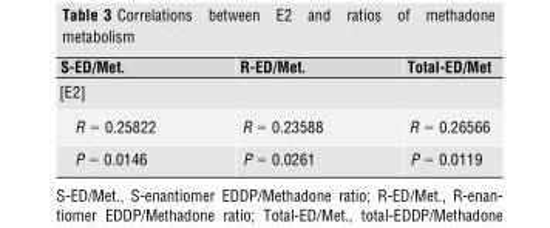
<table><thead><tr><td>S-ED/Met.</td><td>R-ED/Met.</td><td>Total-ED/Met</td></tr></thead><tbody><tr><td colspan="3">[E2]</td></tr><tr><td>R = 0.25822</td><td>R = 0.23588</td><td>R = 0.26566</td></tr><tr><td>P = 0.0146</td><td>P = 0.0261</td><td>P = 0.0119</td></tr></tbody></table>